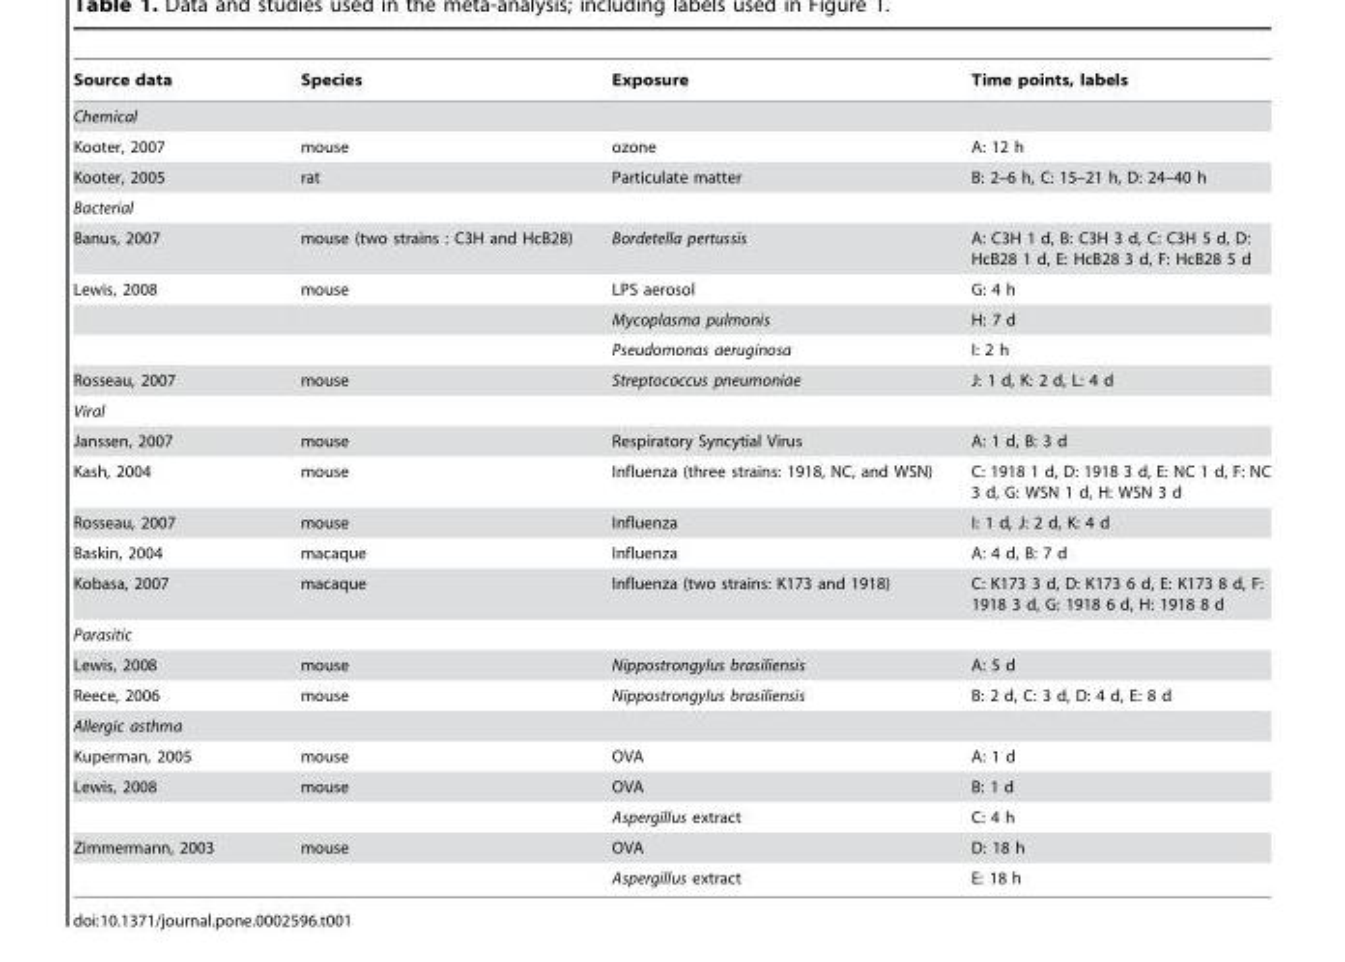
<table><thead><tr><td>Source data</td><td>Species</td><td>Exposure</td><td>Time points, labels</td></tr></thead><tbody><tr><td colspan="4">Chemical</td></tr><tr><td>Kooter, 2007</td><td>mouse</td><td>ozone</td><td>A: 12 h</td></tr><tr><td>Kooter, 2005</td><td>rat</td><td>Particulate matter</td><td>B: 2–6 h, C: 15–21 h, D: 24–40 h</td></tr><tr><td colspan="4">Bacterial</td></tr><tr><td>Banus, 2007</td><td>mouse (two strains : C3H and HcB28)</td><td>Bordetella pertussis</td><td>A: C3H 1 d, B: C3H 3 d, C: C3H 5 d, D: HcB28 1 d, E: HcB28 3 d, F: HcB28 5 d</td></tr><tr><td rowspan="3">Lewis, 2008</td><td>mouse</td><td>LPS aerosol</td><td>G: 4 h</td></tr><tr><td></td><td>Mycoplasma pulmonis</td><td>H: 7 d</td></tr><tr><td></td><td>Pseudomonas aeruginosa</td><td>I: 2 h</td></tr><tr><td>Rosseau, 2007</td><td>mouse</td><td>Streptococcus pneumoniae</td><td>J: 1 d, K: 2 d, L: 4 d</td></tr><tr><td colspan="4">Viral</td></tr><tr><td>Janssen, 2007</td><td>mouse</td><td>Respiratory Syncytial Virus</td><td>A: 1 d, B: 3 d</td></tr><tr><td>Kash, 2004</td><td>mouse</td><td>Influenza (three strains: 1918, NC, and WSN)</td><td>C: 1918 1 d, D: 1918 3 d, E: NC 1 d, F: NC 3 d, G: WSN 1 d, H: WSN 3 d</td></tr><tr><td>Rosseau, 2007</td><td>mouse</td><td>Influenza</td><td>I: 1 d, J: 2 d, K: 4 d</td></tr><tr><td>Baskin, 2004</td><td>macaque</td><td>Influenza</td><td>A: 4 d, B: 7 d</td></tr><tr><td>Kobasa, 2007</td><td>macaque</td><td>Influenza (two strains: K173 and 1918)</td><td>C: K173 3 d, D: K173 6 d, E: K173 8 d, F: 1918 3 d, G: 1918 6 d, H: 1918 8 d</td></tr><tr><td colspan="4">Parasitic</td></tr><tr><td>Lewis, 2008</td><td>mouse</td><td>Nippostrongylus brasiliensis</td><td>A: 5 d</td></tr><tr><td>Reece, 2006</td><td>mouse</td><td>Nippostrongylus brasiliensis</td><td>B: 2 d, C: 3 d, D: 4 d, E: 8 d</td></tr><tr><td colspan="4">Allergic asthma</td></tr><tr><td>Kuperman, 2005</td><td>mouse</td><td>OVA</td><td>A: 1 d</td></tr><tr><td rowspan="2">Lewis, 2008</td><td>mouse</td><td>OVA</td><td>B: 1 d</td></tr><tr><td></td><td>Aspergillus extract</td><td>C: 4 h</td></tr><tr><td rowspan="2">Zimmermann, 2003</td><td>mouse</td><td>OVA</td><td>D: 18 h</td></tr><tr><td></td><td>Aspergillus extract</td><td>E: 18 h</td></tr></tbody></table>